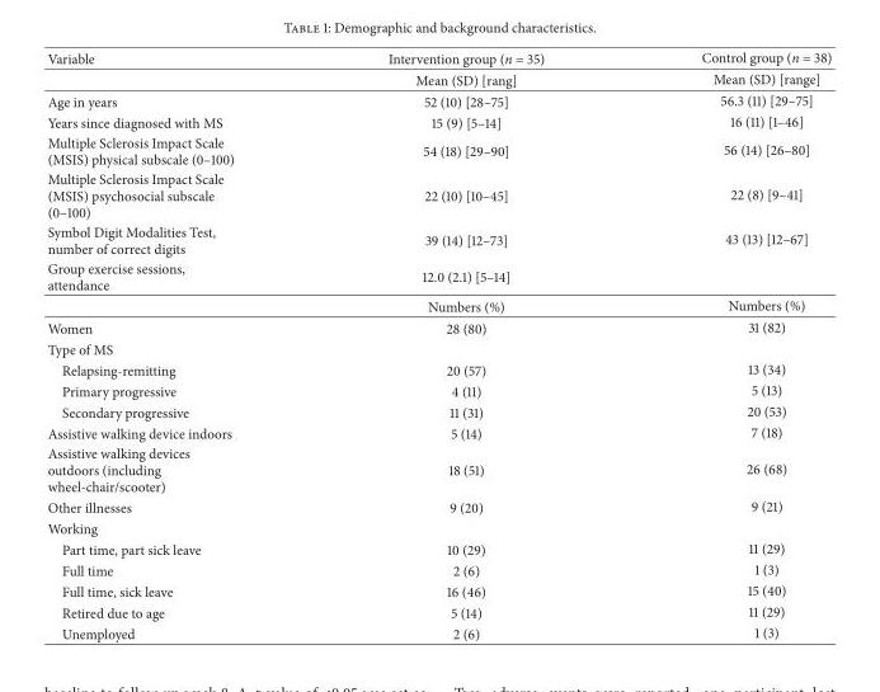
<table><thead><tr><td>Variable</td><td>Intervention group (n = 35)</td><td>Control group (n = 38)</td></tr></thead><tbody><tr><td></td><td>Mean (SD) [rang]</td><td>Mean (SD) [range]</td></tr><tr><td>Age in years</td><td>52 (10) [28–75]</td><td>56.3 (11) [29–75]</td></tr><tr><td>Years since diagnosed with MS</td><td>15 (9) [5–14]</td><td>16 (11) [1–46]</td></tr><tr><td>Multiple Sclerosis Impact Scale (MSIS) physical subscale (0–100)</td><td>54 (18) [29–90]</td><td>56 (14) [26–80]</td></tr><tr><td>Multiple Sclerosis Impact Scale (MSIS) psychosocial subscale (0–100)</td><td>22 (10) [10–45]</td><td>22 (8) [9–41]</td></tr><tr><td>Symbol Digit Modalities Test, number of correct digits</td><td>39 (14) [12–73]</td><td>43 (13) [12–67]</td></tr><tr><td rowspan="2">Group exercise sessions, attendance</td><td>12.0 (2.1) [5–14]</td><td></td></tr><tr><td>Numbers (%)</td><td>Numbers (%)</td></tr><tr><td>Women</td><td>28 (80)</td><td>31 (82)</td></tr><tr><td colspan="3">Type of MS</td></tr><tr><td>Relapsing-remitting</td><td>20 (57)</td><td>13 (34)</td></tr><tr><td>Primary progressive</td><td>4 (11)</td><td>5 (13)</td></tr><tr><td>Secondary progressive</td><td>11 (31)</td><td>20 (53)</td></tr><tr><td>Assistive walking device indoors</td><td>5 (14)</td><td>7 (18)</td></tr><tr><td>Assistive walking devices outdoors (including wheel-chair/scooter)</td><td>18 (51)</td><td>26 (68)</td></tr><tr><td>Other illnesses</td><td>9 (20)</td><td>9 (21)</td></tr><tr><td colspan="3">Working</td></tr><tr><td>Part time, part sick leave</td><td>10 (29)</td><td>11 (29)</td></tr><tr><td>Full time</td><td>2 (6)</td><td>1 (3)</td></tr><tr><td>Full time, sick leave</td><td>16 (46)</td><td>15 (40)</td></tr><tr><td>Retired due to age</td><td>5 (14)</td><td>11 (29)</td></tr><tr><td>Unemployed</td><td>2 (6)</td><td>1 (3)</td></tr></tbody></table>